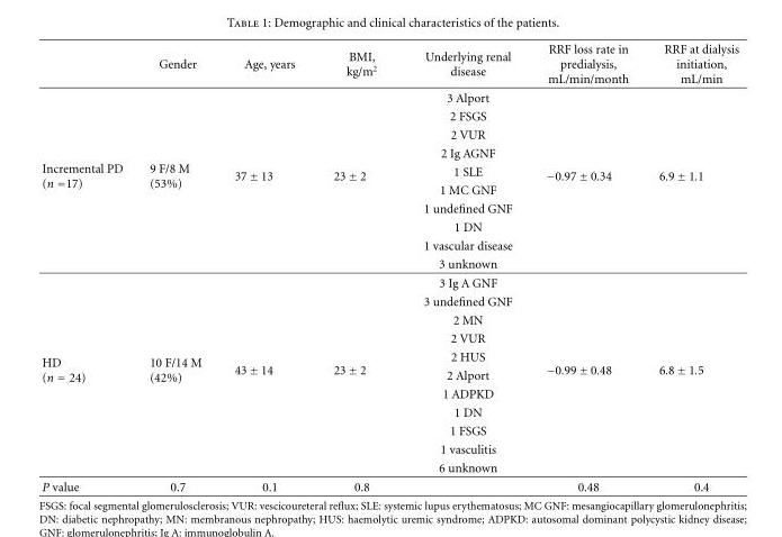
<table><thead><tr><td></td><td>Gender</td><td>Age, years</td><td>BMI, kg/m<sup>2</sup></td><td>Underlying renal disease</td><td>RRF loss rate in predialysis, mL/min/month</td><td>RRF at dialysis initiation, mL/min</td></tr></thead><tbody><tr><td rowspan="10">Incremental PD (n =17)</td><td rowspan="10">9 F/8 M (53%)</td><td rowspan="10">37 ± 13</td><td rowspan="10">23 ± 2</td><td>3 Alport</td><td rowspan="10">−0.97 ± 0.34</td><td rowspan="10">6.9 ± 1.1</td></tr><tr><td>2 FSGS</td></tr><tr><td>2 VUR</td></tr><tr><td>2 Ig AGNF</td></tr><tr><td>1 SLE</td></tr><tr><td>1 MC GNF</td></tr><tr><td>1 undefined GNF</td></tr><tr><td>1 DN</td></tr><tr><td>1 vascular disease</td></tr><tr><td>3 unknown</td></tr><tr><td rowspan="11">HD (n = 24)</td><td rowspan="11">10 F/14 M (42%)</td><td rowspan="11">43 ± 14</td><td rowspan="11">23 ± 2</td><td>3 Ig A GNF</td><td rowspan="11">−0.99 ± 0.48</td><td rowspan="11">6.8 ± 1.5</td></tr><tr><td>3 undefined GNF</td></tr><tr><td>2 MN</td></tr><tr><td>2 VUR</td></tr><tr><td>2 HUS</td></tr><tr><td>2 Alport</td></tr><tr><td>1 ADPKD</td></tr><tr><td>1 DN</td></tr><tr><td>1 FSGS</td></tr><tr><td>1 vasculitis</td></tr><tr><td>6 unknown</td></tr><tr><td>P value</td><td>0.7</td><td>0.1</td><td>0.8</td><td></td><td>0.48</td><td>0.4</td></tr></tbody></table>